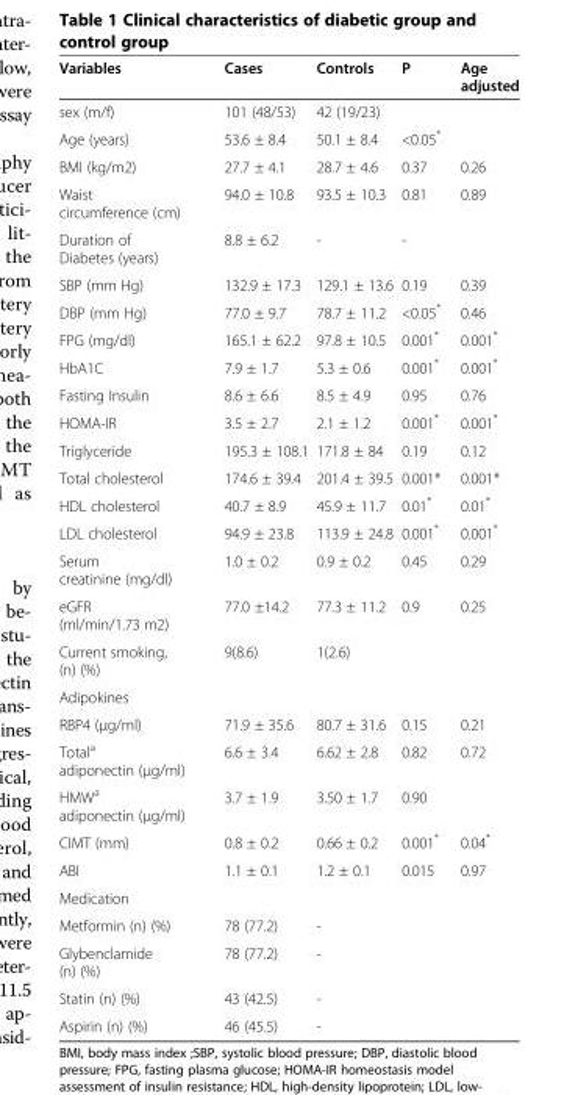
<table><thead><tr><td>Variables</td><td>Cases</td><td>Controls</td><td>P</td><td>Age adjusted</td></tr></thead><tbody><tr><td>sex (m/f)</td><td>101 (48/53)</td><td>42 (19/23)</td><td></td><td></td></tr><tr><td>Age (years)</td><td>53.6 ± 8.4</td><td>50.1 ± 8.4</td><td>&lt;0.05*</td><td></td></tr><tr><td>BMI (kg/m2)</td><td>27.7 ± 4.1</td><td>28.7 ± 4.6</td><td>0.37</td><td>0.26</td></tr><tr><td>Waist circumference (cm)</td><td>94.0 ± 10.8</td><td>93.5 ± 10.3</td><td>0.81</td><td>0.89</td></tr><tr><td>Duration of Diabetes (years)</td><td>8.8 ± 6.2</td><td>-</td><td>-</td><td></td></tr><tr><td>SBP (mm Hg)</td><td>132.9 ± 17.3</td><td>129.1 ± 13.6</td><td>0.19</td><td>0.39</td></tr><tr><td>DBP (mm Hg)</td><td>77.0 ± 9.7</td><td>78.7 ± 11.2</td><td>&lt;0.05*</td><td>0.46</td></tr><tr><td>FPG (mg/dl)</td><td>165.1 ± 62.2</td><td>97.8 ± 10.5</td><td>0.001*</td><td>0.001*</td></tr><tr><td>HbA1C</td><td>7.9 ± 1.7</td><td>5.3 ± 0.6</td><td>0.001*</td><td>0.001*</td></tr><tr><td>Fasting Insulin</td><td>8.6 ± 6.6</td><td>8.5 ± 4.9</td><td>0.95</td><td>0.76</td></tr><tr><td>HOMA-IR</td><td>3.5 ± 2.7</td><td>2.1 ± 1.2</td><td>0.001*</td><td>0.001*</td></tr><tr><td>Triglyceride</td><td>195.3 ± 108.1</td><td>171.8 ± 84</td><td>0.19</td><td>0.12</td></tr><tr><td>Total cholesterol</td><td>174.6 ± 39.4</td><td>201.4 ± 39.5</td><td>0.001*</td><td>0.001*</td></tr><tr><td>HDL cholesterol</td><td>40.7 ± 8.9</td><td>45.9 ± 11.7</td><td>0.01*</td><td>0.01*</td></tr><tr><td>LDL cholesterol</td><td>94.9 ± 23.8</td><td>113.9 ± 24.8</td><td>0.001*</td><td>0.001*</td></tr><tr><td>Serum creatinine (mg/dl)</td><td>1.0 ± 0.2</td><td>0.9 ± 0.2</td><td>0.45</td><td>0.29</td></tr><tr><td>eGFR (ml/min/1.73 m2)</td><td>77.0 ±14.2</td><td>77.3 ± 11.2</td><td>0.9</td><td>0.25</td></tr><tr><td>Current smoking, (n) (%)</td><td>9(8.6)</td><td>1(2.6)</td><td></td><td></td></tr><tr><td colspan="5">Adipokines</td></tr><tr><td>RBP4 (µg/ml)</td><td>71.9 ± 35.6</td><td>80.7 ± 31.6</td><td>0.15</td><td>0.21</td></tr><tr><td>Total<sup>a</sup> adiponectin (µg/ml)</td><td>6.6 ± 3.4</td><td>6.62 ± 2.8</td><td>0.82</td><td>0.72</td></tr><tr><td>HMW<sup>a</sup> adiponectin (µg/ml)</td><td>3.7 ± 1.9</td><td>3.50 ± 1.7</td><td>0.90</td><td></td></tr><tr><td>CIMT (mm)</td><td>0.8 ± 0.2</td><td>0.66 ± 0.2</td><td>0.001*</td><td>0.04*</td></tr><tr><td>ABI</td><td>1.1 ± 0.1</td><td>1.2 ± 0.1</td><td>0.015</td><td>0.97</td></tr><tr><td colspan="5">Medication</td></tr><tr><td>Metformin (n) (%)</td><td>78 (77.2)</td><td>-</td><td></td><td></td></tr><tr><td>Glybenclamide (n) (%)</td><td>78 (77.2)</td><td>-</td><td></td><td></td></tr><tr><td>Statin (n) (%)</td><td>43 (42.5)</td><td>-</td><td></td><td></td></tr><tr><td>Aspirin (n) (%)</td><td>46 (45.5)</td><td>-</td><td></td><td></td></tr></tbody></table>